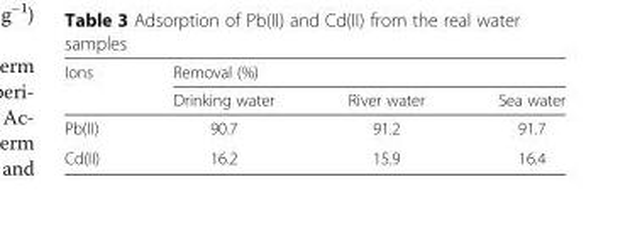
<table><thead><tr><td rowspan="2">Ions</td><td colspan="3">Removal (%)</td></tr><tr><td>Drinking water</td><td>River water</td><td>Sea water</td></tr></thead><tbody><tr><td>Pb(II)</td><td>90.7</td><td>91.2</td><td>91.7</td></tr><tr><td>Cd(II)</td><td>16.2</td><td>15.9</td><td>16.4</td></tr></tbody></table>